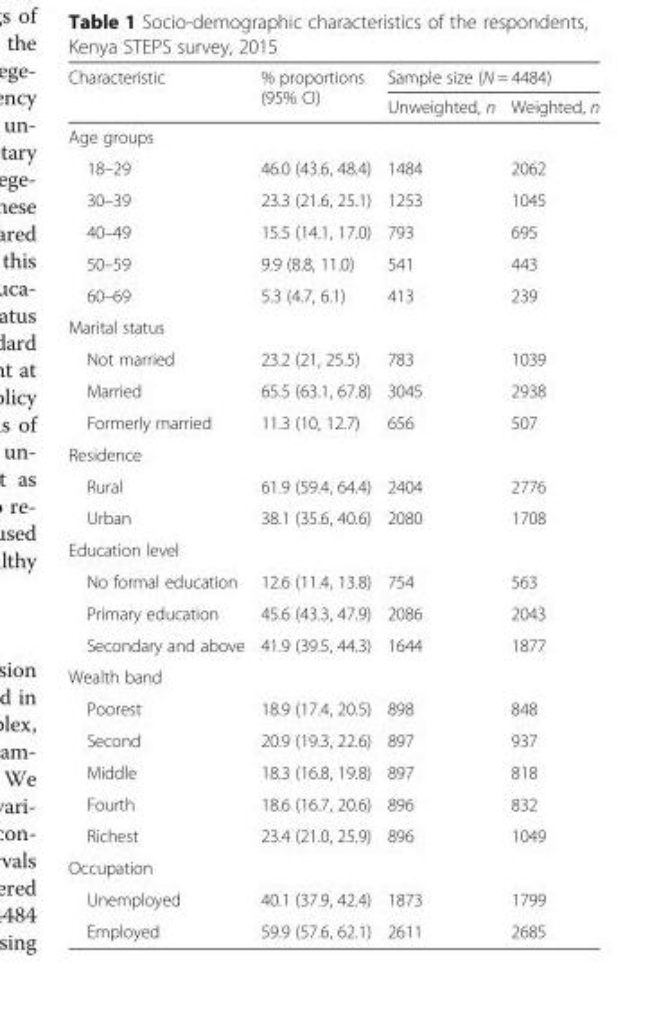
<table><thead><tr><td rowspan="2">Characteristic</td><td rowspan="2">% proportions (95% CI)</td><td colspan="2">Sample size (N = 4484)</td></tr><tr><td>Unweighted, n</td><td>Weighted, n</td></tr></thead><tbody><tr><td colspan="4">Age groups</td></tr><tr><td>18–29</td><td>46.0 (43.6, 48.4)</td><td>1484</td><td>2062</td></tr><tr><td>30–39</td><td>23.3 (21.6, 25.1)</td><td>1253</td><td>1045</td></tr><tr><td>40–49</td><td>15.5 (14.1, 17.0)</td><td>793</td><td>695</td></tr><tr><td>50–59</td><td>9.9 (8.8, 11.0)</td><td>541</td><td>443</td></tr><tr><td>60–69</td><td>5.3 (4.7, 6.1)</td><td>413</td><td>239</td></tr><tr><td colspan="4">Marital status</td></tr><tr><td>Not married</td><td>23.2 (21, 25.5)</td><td>783</td><td>1039</td></tr><tr><td>Married</td><td>65.5 (63.1, 67.8)</td><td>3045</td><td>2938</td></tr><tr><td>Formerly married</td><td>11.3 (10, 12.7)</td><td>656</td><td>507</td></tr><tr><td colspan="4">Residence</td></tr><tr><td>Rural</td><td>61.9 (59.4, 64.4)</td><td>2404</td><td>2776</td></tr><tr><td>Urban</td><td>38.1 (35.6, 40.6)</td><td>2080</td><td>1708</td></tr><tr><td colspan="4">Education level</td></tr><tr><td>No formal education</td><td>12.6 (11.4, 13.8)</td><td>754</td><td>563</td></tr><tr><td>Primary education</td><td>45.6 (43.3, 47.9)</td><td>2086</td><td>2043</td></tr><tr><td>Secondary and above</td><td>41.9 (39.5, 44.3)</td><td>1644</td><td>1877</td></tr><tr><td colspan="4">Wealth band</td></tr><tr><td>Poorest</td><td>18.9 (17.4, 20.5)</td><td>898</td><td>848</td></tr><tr><td>Second</td><td>20.9 (19.3, 22.6)</td><td>897</td><td>937</td></tr><tr><td>Middle</td><td>18.3 (16.8, 19.8)</td><td>897</td><td>818</td></tr><tr><td>Fourth</td><td>18.6 (16.7, 20.6)</td><td>896</td><td>832</td></tr><tr><td>Richest</td><td>23.4 (21.0, 25.9)</td><td>896</td><td>1049</td></tr><tr><td colspan="4">Occupation</td></tr><tr><td>Unemployed</td><td>40.1 (37.9, 42.4)</td><td>1873</td><td>1799</td></tr><tr><td>Employed</td><td>59.9 (57.6, 62.1)</td><td>2611</td><td>2685</td></tr></tbody></table>